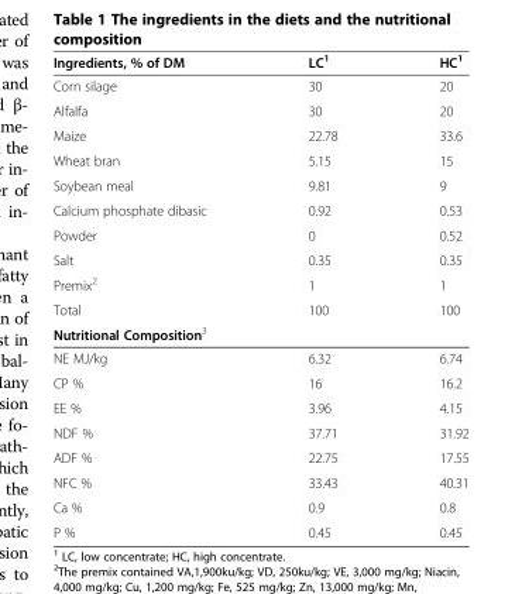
<table><thead><tr><td>Ingredients, % of DM</td><td>LC<sup>1</sup></td><td>HC<sup>1</sup></td></tr></thead><tbody><tr><td>Corn silage</td><td>30</td><td>20</td></tr><tr><td>Alfalfa</td><td>30</td><td>20</td></tr><tr><td>Maize</td><td>22.78</td><td>33.6</td></tr><tr><td>Wheat bran</td><td>5.15</td><td>15</td></tr><tr><td>Soybean meal</td><td>9.81</td><td>9</td></tr><tr><td>Calcium phosphate dibasic</td><td>0.92</td><td>0.53</td></tr><tr><td>Powder</td><td>0</td><td>0.52</td></tr><tr><td>Salt</td><td>0.35</td><td>0.35</td></tr><tr><td>Premix<sup>2</sup></td><td>1</td><td>1</td></tr><tr><td>Total</td><td>100</td><td>100</td></tr><tr><td colspan="3">Nutritional Composition<sup>3</sup></td></tr><tr><td>NE MJ/kg</td><td>6.32</td><td>6.74</td></tr><tr><td>CP %</td><td>16</td><td>16.2</td></tr><tr><td>EE %</td><td>3.96</td><td>4.15</td></tr><tr><td>NDF %</td><td>37.71</td><td>31.92</td></tr><tr><td>ADF %</td><td>22.75</td><td>17.55</td></tr><tr><td>NFC %</td><td>33.43</td><td>40.31</td></tr><tr><td>Ca %</td><td>0.9</td><td>0.8</td></tr><tr><td>P %</td><td>0.45</td><td>0.45</td></tr></tbody></table>